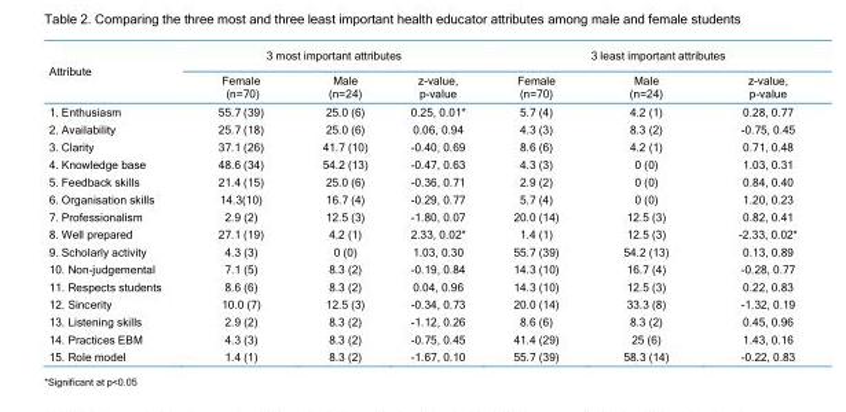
<table><thead><tr><td rowspan="2">Attribute</td><td colspan="3">3 most important attributes</td><td colspan="3">3 least important attributes</td></tr><tr><td>Female (n=70)</td><td>Male (n=24)</td><td>z-value, p-value</td><td>Female (n=70)</td><td>Male (n=24)</td><td>z-value, p-value</td></tr></thead><tbody><tr><td>1. Enthusiasm</td><td>55.7 (39)</td><td>25.0 (6)</td><td>0.25, 0.01*</td><td>5.7 (4)</td><td>4.2 (1)</td><td>0.28, 0.77</td></tr><tr><td>2. Availability</td><td>25.7 (18)</td><td>25.0 (6)</td><td>0.06, 0.94</td><td>4.3 (3)</td><td>8.3 (2)</td><td>-0.75, 0.45</td></tr><tr><td>3. Clarity</td><td>37.1 (26)</td><td>41.7 (10)</td><td>-0.40, 0.69</td><td>8.6 (6)</td><td>4.2 (1)</td><td>0.71, 0.48</td></tr><tr><td>4. Knowledge base</td><td>48.6 (34)</td><td>54.2 (13)</td><td>-0.47, 0.63</td><td>4.3 (3)</td><td>0 (0)</td><td>1.03, 0.31</td></tr><tr><td>5. Feedback skills</td><td>21.4 (15)</td><td>25.0 (6)</td><td>-0.36, 0.71</td><td>2.9 (2)</td><td>0 (0)</td><td>0.84, 0.40</td></tr><tr><td>6. Organisation skills</td><td>14.3(10)</td><td>16.7 (4)</td><td>-0.29, 0.77</td><td>5.7 (4)</td><td>0 (0)</td><td>1.20, 0.23</td></tr><tr><td>7. Professionalism</td><td>2.9 (2)</td><td>12.5 (3)</td><td>-1.80, 0.07</td><td>20.0 (14)</td><td>12.5 (3)</td><td>0.82, 0.41</td></tr><tr><td>8. Well prepared</td><td>27.1 (19)</td><td>4.2 (1)</td><td>2.33, 0.02*</td><td>1.4 (1)</td><td>12.5 (3)</td><td>-2.33, 0.02*</td></tr><tr><td>9. Scholarly activity</td><td>4.3 (3)</td><td>0 (0)</td><td>1.03, 0.30</td><td>55.7 (39)</td><td>54.2 (13)</td><td>0.13, 0.89</td></tr><tr><td>10. Non-judgemental</td><td>7.1 (5)</td><td>8.3 (2)</td><td>-0.19, 0.84</td><td>14.3 (10)</td><td>16.7 (4)</td><td>-0.28, 0.77</td></tr><tr><td>11. Respects students</td><td>8.6 (6)</td><td>8.3 (2)</td><td>0.04, 0.96</td><td>14.3 (10)</td><td>12.5 (3)</td><td>0.22, 0.83</td></tr><tr><td>12. Sincerity</td><td>10.0 (7)</td><td>12.5 (3)</td><td>-0.34, 0.73</td><td>20.0 (14)</td><td>33.3 (8)</td><td>-1.32, 0.19</td></tr><tr><td>13. Listening skills</td><td>2.9 (2)</td><td>8.3 (2)</td><td>-1.12, 0.26</td><td>8.6 (6)</td><td>8.3 (2)</td><td>0.45, 0.96</td></tr><tr><td>14. Practices EBM</td><td>4.3 (3)</td><td>8.3 (2)</td><td>-0.75, 0.45</td><td>41.4 (29)</td><td>25 (6)</td><td>1.43, 0.16</td></tr><tr><td>15. Role model</td><td>1.4 (1)</td><td>8.3 (2)</td><td>-1.67, 0.10</td><td>55.7 (39)</td><td>58.3 (14)</td><td>-0.22, 0.83</td></tr></tbody></table>